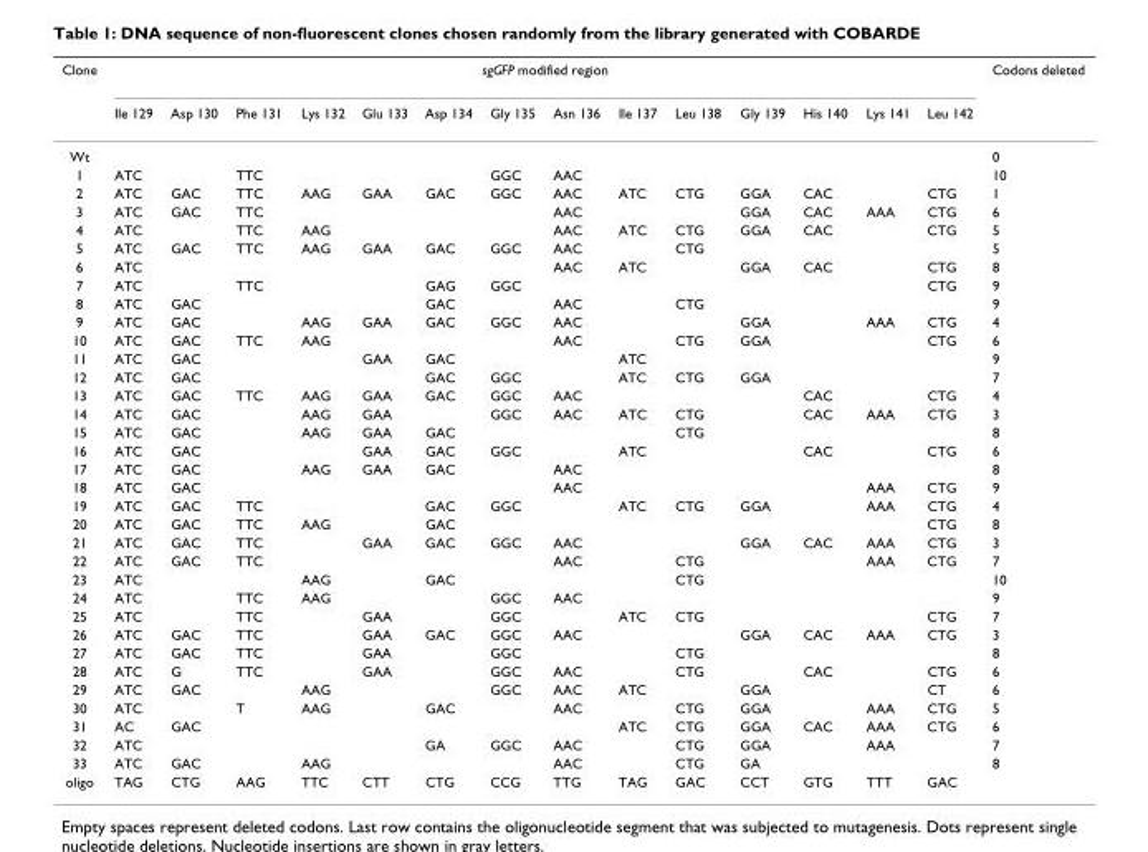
<table><thead><tr><td rowspan="2">Clone</td><td colspan="14">sgGFP modified region</td><td rowspan="2">Codons deleted</td></tr><tr><td>Ile 129</td><td>Asp 130</td><td>Phe 131</td><td>Lys 132</td><td>Glu 133</td><td>Asp 134</td><td>Gly 135</td><td>Asn 136</td><td>Ile 137</td><td>Leu 138</td><td>Gly 139</td><td>His 140</td><td>Lys 141</td><td>Leu 142</td></tr></thead><tbody><tr><td>Wt</td><td></td><td></td><td></td><td></td><td></td><td></td><td></td><td></td><td></td><td></td><td></td><td></td><td></td><td></td><td>0</td></tr><tr><td>1</td><td>ATC</td><td></td><td>TTC</td><td></td><td></td><td></td><td>GGC</td><td>AAC</td><td></td><td></td><td></td><td></td><td></td><td></td><td>10</td></tr><tr><td>2</td><td>ATC</td><td>GAC</td><td>TTC</td><td>AAG</td><td>GAA</td><td>GAC</td><td>GGC</td><td>AAC</td><td>ATC</td><td>CTG</td><td>GGA</td><td>CAC</td><td></td><td>CTG</td><td>1</td></tr><tr><td>3</td><td>ATC</td><td>GAC</td><td>TTC</td><td></td><td></td><td></td><td></td><td>AAC</td><td></td><td></td><td>GGA</td><td>CAC</td><td>AAA</td><td>CTG</td><td>6</td></tr><tr><td>4</td><td>ATC</td><td></td><td>TTC</td><td>AAG</td><td></td><td></td><td></td><td>AAC</td><td>ATC</td><td>CTG</td><td>GGA</td><td>CAC</td><td></td><td>CTG</td><td>5</td></tr><tr><td>5</td><td>ATC</td><td>GAC</td><td>TTC</td><td>AAG</td><td>GAA</td><td>GAC</td><td>GGC</td><td>AAC</td><td></td><td>CTG</td><td></td><td></td><td></td><td></td><td>5</td></tr><tr><td>6</td><td>ATC</td><td></td><td></td><td></td><td></td><td></td><td></td><td>AAC</td><td>ATC</td><td></td><td>GGA</td><td>CAC</td><td></td><td>CTG</td><td>8</td></tr><tr><td>7</td><td>ATC</td><td></td><td>TTC</td><td></td><td></td><td>GAG</td><td>GGC</td><td></td><td></td><td></td><td></td><td></td><td></td><td>CTG</td><td>9</td></tr><tr><td>8</td><td>ATC</td><td>GAC</td><td></td><td></td><td></td><td>GAC</td><td></td><td>AAC</td><td></td><td>CTG</td><td></td><td></td><td></td><td></td><td>9</td></tr><tr><td>9</td><td>ATC</td><td>GAC</td><td></td><td>AAG</td><td>GAA</td><td>GAC</td><td>GGC</td><td>AAC</td><td></td><td></td><td>GGA</td><td></td><td>AAA</td><td>CTG</td><td>4</td></tr><tr><td>10</td><td>ATC</td><td>GAC</td><td>TTC</td><td>AAG</td><td></td><td></td><td></td><td>AAC</td><td></td><td>CTG</td><td>GGA</td><td></td><td></td><td>CTG</td><td>6</td></tr><tr><td>11</td><td>ATC</td><td>GAC</td><td></td><td></td><td>GAA</td><td>GAC</td><td></td><td></td><td>ATC</td><td></td><td></td><td></td><td></td><td></td><td>9</td></tr><tr><td>12</td><td>ATC</td><td>GAC</td><td></td><td></td><td></td><td>GAC</td><td>GGC</td><td></td><td>ATC</td><td>CTG</td><td>GGA</td><td></td><td></td><td></td><td>7</td></tr><tr><td>13</td><td>ATC</td><td>GAC</td><td>TTC</td><td>AAG</td><td>GAA</td><td>GAC</td><td>GGC</td><td>AAC</td><td></td><td></td><td></td><td>CAC</td><td></td><td>CTG</td><td>4</td></tr><tr><td>14</td><td>ATC</td><td>GAC</td><td></td><td>AAG</td><td>GAA</td><td></td><td>GGC</td><td>AAC</td><td>ATC</td><td>CTG</td><td></td><td>CAC</td><td>AAA</td><td>CTG</td><td>3</td></tr><tr><td>15</td><td>ATC</td><td>GAC</td><td></td><td>AAG</td><td>GAA</td><td>GAC</td><td></td><td></td><td></td><td>CTG</td><td></td><td></td><td></td><td></td><td>8</td></tr><tr><td>16</td><td>ATC</td><td>GAC</td><td></td><td></td><td>GAA</td><td>GAC</td><td>GGC</td><td></td><td>ATC</td><td></td><td></td><td>CAC</td><td></td><td>CTG</td><td>6</td></tr><tr><td>17</td><td>ATC</td><td>GAC</td><td></td><td>AAG</td><td>GAA</td><td>GAC</td><td></td><td>AAC</td><td></td><td></td><td></td><td></td><td></td><td></td><td>8</td></tr><tr><td>18</td><td>ATC</td><td>GAC</td><td></td><td></td><td></td><td></td><td></td><td>AAC</td><td></td><td></td><td></td><td></td><td>AAA</td><td>CTG</td><td>9</td></tr><tr><td>19</td><td>ATC</td><td>GAC</td><td>TTC</td><td></td><td></td><td>GAC</td><td>GGC</td><td></td><td>ATC</td><td>CTG</td><td>GGA</td><td></td><td>AAA</td><td>CTG</td><td>4</td></tr><tr><td>20</td><td>ATC</td><td>GAC</td><td>TTC</td><td>AAG</td><td></td><td>GAC</td><td></td><td></td><td></td><td></td><td></td><td></td><td></td><td>CTG</td><td>8</td></tr><tr><td>21</td><td>ATC</td><td>GAC</td><td>TTC</td><td></td><td>GAA</td><td>GAC</td><td>GGC</td><td>AAC</td><td></td><td></td><td>GGA</td><td>CAC</td><td>AAA</td><td>CTG</td><td>3</td></tr><tr><td>22</td><td>ATC</td><td>GAC</td><td>TTC</td><td></td><td></td><td></td><td></td><td>AAC</td><td></td><td>CTG</td><td></td><td></td><td>AAA</td><td>CTG</td><td>7</td></tr><tr><td>23</td><td>ATC</td><td></td><td></td><td>AAG</td><td></td><td>GAC</td><td></td><td></td><td></td><td>CTG</td><td></td><td></td><td></td><td></td><td>10</td></tr><tr><td>24</td><td>ATC</td><td></td><td>TTC</td><td>AAG</td><td></td><td></td><td>GGC</td><td>AAC</td><td></td><td></td><td></td><td></td><td></td><td></td><td>9</td></tr><tr><td>25</td><td>ATC</td><td></td><td>TTC</td><td></td><td>GAA</td><td></td><td>GGC</td><td></td><td>ATC</td><td>CTG</td><td></td><td></td><td></td><td>CTG</td><td>7</td></tr><tr><td>26</td><td>ATC</td><td>GAC</td><td>TTC</td><td></td><td>GAA</td><td>GAC</td><td>GGC</td><td>AAC</td><td></td><td></td><td>GGA</td><td>CAC</td><td>AAA</td><td>CTG</td><td>3</td></tr><tr><td>27</td><td>ATC</td><td>GAC</td><td>TTC</td><td></td><td>GAA</td><td></td><td>GGC</td><td></td><td></td><td>CTG</td><td></td><td></td><td></td><td></td><td>8</td></tr><tr><td>28</td><td>ATC</td><td>G</td><td>TTC</td><td></td><td>GAA</td><td></td><td>GGC</td><td>AAC</td><td></td><td>CTG</td><td></td><td>CAC</td><td></td><td>CTG</td><td>6</td></tr><tr><td>29</td><td>ATC</td><td>GAC</td><td></td><td>AAG</td><td></td><td></td><td>GGC</td><td>AAC</td><td>ATC</td><td></td><td>GGA</td><td></td><td></td><td>CT</td><td>6</td></tr><tr><td>30</td><td>ATC</td><td></td><td>T</td><td>AAG</td><td></td><td>GAC</td><td></td><td>AAC</td><td></td><td>CTG</td><td>GGA</td><td></td><td>AAA</td><td>CTG</td><td>5</td></tr><tr><td>31</td><td>AC</td><td>GAC</td><td></td><td></td><td></td><td></td><td></td><td></td><td>ATC</td><td>CTG</td><td>GGA</td><td>CAC</td><td>AAA</td><td>CTG</td><td>6</td></tr><tr><td>32</td><td>ATC</td><td></td><td></td><td></td><td></td><td>GA</td><td>GGC</td><td>AAC</td><td></td><td>CTG</td><td>GGA</td><td></td><td>AAA</td><td></td><td>7</td></tr><tr><td>33</td><td>ATC</td><td>GAC</td><td></td><td>AAG</td><td></td><td></td><td></td><td>AAC</td><td></td><td>CTG</td><td>GA</td><td></td><td></td><td></td><td>8</td></tr><tr><td>oligo</td><td>TAG</td><td>CTG</td><td>AAG</td><td>TTC</td><td>CTT</td><td>CTG</td><td>CCG</td><td>TTG</td><td>TAG</td><td>GAC</td><td>CCT</td><td>GTG</td><td>TTT</td><td>GAC</td><td></td></tr></tbody></table>